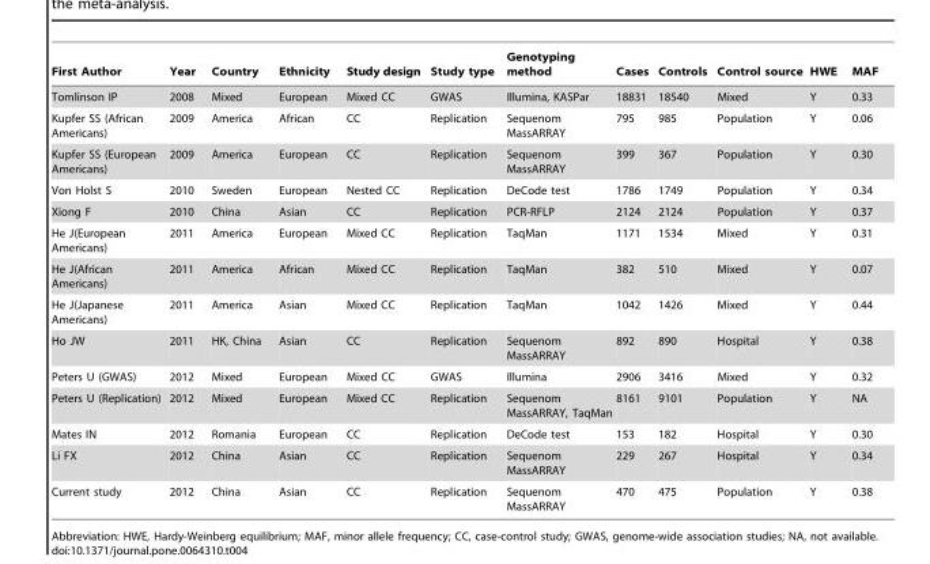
<table><thead><tr><td>First Author</td><td>Year</td><td>Country</td><td>Ethnicity</td><td>Study design</td><td>Study type</td><td>Genotyping method</td><td>Cases</td><td>Controls</td><td>Control source</td><td>HWE</td><td>MAF</td></tr></thead><tbody><tr><td>Tomlinson IP</td><td>2008</td><td>Mixed</td><td>European</td><td>Mixed CC</td><td>GWAS</td><td>Illumina, KASPar</td><td>18831</td><td>18540</td><td>Mixed</td><td>Y</td><td>0.33</td></tr><tr><td>Kupfer SS (African Americans)</td><td>2009</td><td>America</td><td>African</td><td>CC</td><td>Replication</td><td>Sequenom MassARRAY</td><td>795</td><td>985</td><td>Population</td><td>Y</td><td>0.06</td></tr><tr><td>Kupfer SS (European Americans)</td><td>2009</td><td>America</td><td>European</td><td>CC</td><td>Replication</td><td>Sequenom MassARRAY</td><td>399</td><td>367</td><td>Population</td><td>Y</td><td>0.30</td></tr><tr><td>Von Holst S</td><td>2010</td><td>Sweden</td><td>European</td><td>Nested CC</td><td>Replication</td><td>DeCode test</td><td>1786</td><td>1749</td><td>Population</td><td>Y</td><td>0.34</td></tr><tr><td>Xiong F</td><td>2010</td><td>China</td><td>Asian</td><td>CC</td><td>Replication</td><td>PCR-RFLP</td><td>2124</td><td>2124</td><td>Population</td><td>Y</td><td>0.37</td></tr><tr><td>He J(European Americans)</td><td>2011</td><td>America</td><td>European</td><td>Mixed CC</td><td>Replication</td><td>TaqMan</td><td>1171</td><td>1534</td><td>Mixed</td><td>Y</td><td>0.31</td></tr><tr><td>He J(African Americans)</td><td>2011</td><td>America</td><td>African</td><td>Mixed CC</td><td>Replication</td><td>TaqMan</td><td>382</td><td>510</td><td>Mixed</td><td>Y</td><td>0.07</td></tr><tr><td>He J(Japanese Americans)</td><td>2011</td><td>America</td><td>Asian</td><td>Mixed CC</td><td>Replication</td><td>TaqMan</td><td>1042</td><td>1426</td><td>Mixed</td><td>Y</td><td>0.44</td></tr><tr><td>Ho JW</td><td>2011</td><td>HK, China</td><td>Asian</td><td>CC</td><td>Replication</td><td>Sequenom MassARRAY</td><td>892</td><td>890</td><td>Hospital</td><td>Y</td><td>0.38</td></tr><tr><td>Peters U (GWAS)</td><td>2012</td><td>Mixed</td><td>European</td><td>Mixed CC</td><td>GWAS</td><td>Illumina</td><td>2906</td><td>3416</td><td>Mixed</td><td>Y</td><td>0.32</td></tr><tr><td>Peters U (Replication)</td><td>2012</td><td>Mixed</td><td>European</td><td>Mixed CC</td><td>Replication</td><td>Sequenom MassARRAY, TaqMan</td><td>8161</td><td>9101</td><td>Population</td><td>Y</td><td>NA</td></tr><tr><td>Mates IN</td><td>2012</td><td>Romania</td><td>European</td><td>CC</td><td>Replication</td><td>DeCode test</td><td>153</td><td>182</td><td>Hospital</td><td>Y</td><td>0.30</td></tr><tr><td>Li FX</td><td>2012</td><td>China</td><td>Asian</td><td>CC</td><td>Replication</td><td>Sequenom MassARRAY</td><td>229</td><td>267</td><td>Hospital</td><td>Y</td><td>0.34</td></tr><tr><td>Current study</td><td>2012</td><td>China</td><td>Asian</td><td>CC</td><td>Replication</td><td>Sequenom MassARRAY</td><td>470</td><td>475</td><td>Population</td><td>Y</td><td>0.38</td></tr></tbody></table>